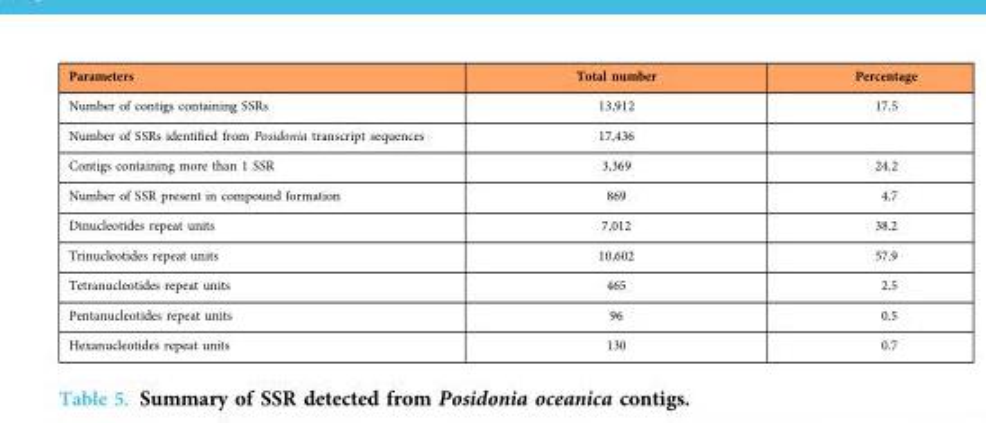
<table><thead><tr><td>Parameters</td><td>Total number</td><td>Percentage</td></tr></thead><tbody><tr><td>Number of contigs containing SSRs</td><td>13,912</td><td>17.5</td></tr><tr><td>Number of SSRs identified from Posidonia transcript sequences</td><td>17,436</td><td></td></tr><tr><td>Contigs containing more than 1 SSR</td><td>3,369</td><td>24.2</td></tr><tr><td>Number of SSR present in compound formation</td><td>869</td><td>4.7</td></tr><tr><td>Dinucleotides repeat units</td><td>7,012</td><td>38.2</td></tr><tr><td>Trinucleotides repeat units</td><td>10,602</td><td>57.9</td></tr><tr><td>Tetranucleotides repeat units</td><td>465</td><td>2.5</td></tr><tr><td>Pentanucleotides repeat units</td><td>96</td><td>0.5</td></tr><tr><td>Hexanucleotides repeat units</td><td>130</td><td>0.7</td></tr></tbody></table>